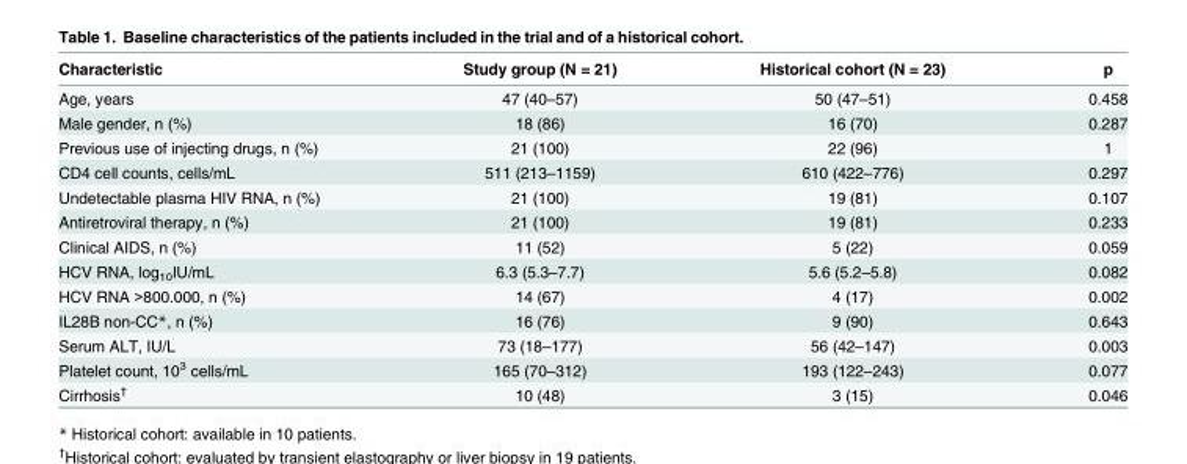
<table><thead><tr><td>Characteristic</td><td>Study group (N = 21)</td><td>Historical cohort (N = 23)</td><td>p</td></tr></thead><tbody><tr><td>Age, years</td><td>47 (40–57)</td><td>50 (47–51)</td><td>0.458</td></tr><tr><td>Male gender, n (%)</td><td>18 (86)</td><td>16 (70)</td><td>0.287</td></tr><tr><td>Previous use of injecting drugs, n (%)</td><td>21 (100)</td><td>22 (96)</td><td>1</td></tr><tr><td>CD4 cell counts, cells/mL</td><td>511 (213–1159)</td><td>610 (422–776)</td><td>0.297</td></tr><tr><td>Undetectable plasma HIV RNA, n (%)</td><td>21 (100)</td><td>19 (81)</td><td>0.107</td></tr><tr><td>Antiretroviral therapy, n (%)</td><td>21 (100)</td><td>19 (81)</td><td>0.233</td></tr><tr><td>Clinical AIDS, n (%)</td><td>11 (52)</td><td>5 (22)</td><td>0.059</td></tr><tr><td>HCV RNA, log<sub>10</sub>IU/mL</td><td>6.3 (5.3–7.7)</td><td>5.6 (5.2–5.8)</td><td>0.082</td></tr><tr><td>HCV RNA &gt;800.000, n (%)</td><td>14 (67)</td><td>4 (17)</td><td>0.002</td></tr><tr><td>IL28B non-CC*, n (%)</td><td>16 (76)</td><td>9 (90)</td><td>0.643</td></tr><tr><td>Serum ALT, IU/L</td><td>73 (18–177)</td><td>56 (42–147)</td><td>0.003</td></tr><tr><td>Platelet count, 10<sup>3</sup> cells/mL</td><td>165 (70–312)</td><td>193 (122–243)</td><td>0.077</td></tr><tr><td>Cirrhosis<sup>†</sup></td><td>10 (48)</td><td>3 (15)</td><td>0.046</td></tr></tbody></table>